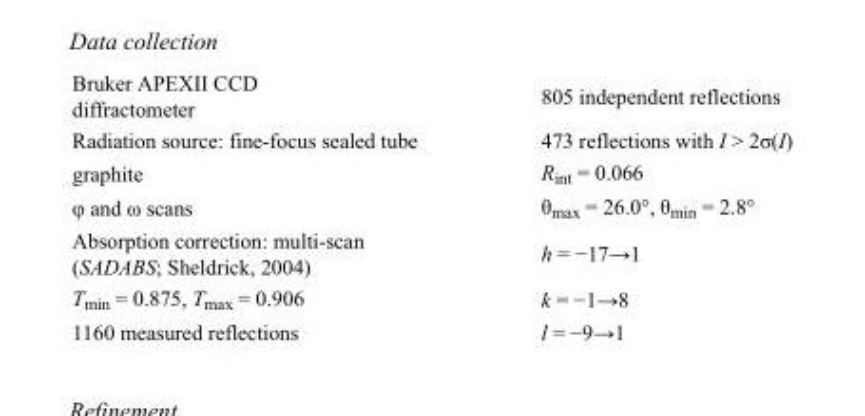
<table><tbody><tr><td>Bruker APEXII CCD diffractometer</td><td>805 independent reflections</td></tr><tr><td>Radiation source: fine-focus sealed tube</td><td>473 reflections with I &gt; 2σ(I)</td></tr><tr><td>graphite</td><td>R<sub>int</sub> = 0.066</td></tr><tr><td>φ and ω scans</td><td>θ<sub>max</sub> = 26.0°, θ<sub>min</sub> = 2.8°</td></tr><tr><td>Absorption correction: multi-scan (SADABS; Sheldrick, 2004)</td><td>h = −17→1</td></tr><tr><td>T<sub>min</sub> = 0.875, T<sub>max</sub> = 0.906</td><td>k = −1→8</td></tr><tr><td>1160 measured reflections</td><td>l = −9→1</td></tr></tbody></table>